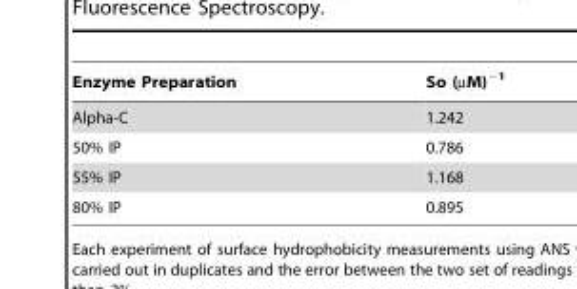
<table><thead><tr><td>Enzyme Preparation</td><td>So (µM)<sup>−1</sup></td></tr></thead><tbody><tr><td>Alpha-C</td><td>1.242</td></tr><tr><td>50% IP</td><td>0.786</td></tr><tr><td>55% IP</td><td>1.168</td></tr><tr><td>80% IP</td><td>0.895</td></tr></tbody></table>